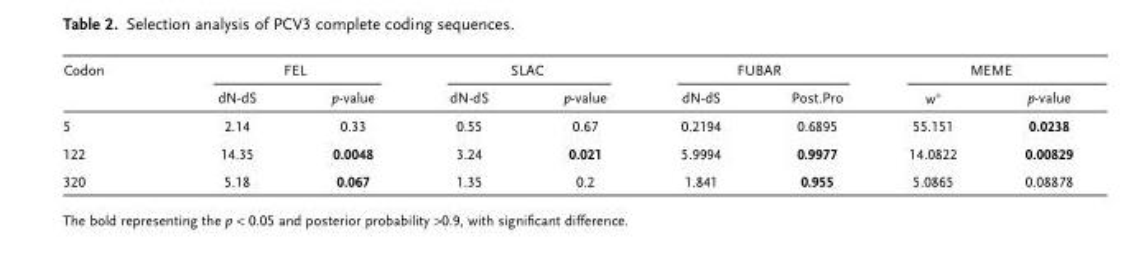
<table><thead><tr><td rowspan="2">Codon</td><td colspan="2">FEL</td><td colspan="2">SLAC</td><td colspan="2">FUBAR</td><td colspan="2">MEME</td></tr><tr><td>dN-dS</td><td>p-value</td><td>dN-dS</td><td>p-value</td><td>dN-dS</td><td>Post.Pro</td><td>w<sup>+</sup></td><td>p-value</td></tr></thead><tbody><tr><td>5</td><td>2.14</td><td>0.33</td><td>0.55</td><td>0.67</td><td>0.2194</td><td>0.6895</td><td>55.151</td><td>0.0238</td></tr><tr><td>122</td><td>14.35</td><td>0.0048</td><td>3.24</td><td>0.021</td><td>5.9994</td><td>0.9977</td><td>14.0822</td><td>0.00829</td></tr><tr><td>320</td><td>5.18</td><td>0.067</td><td>1.35</td><td>0.2</td><td>1.841</td><td>0.955</td><td>5.0865</td><td>0.08878</td></tr></tbody></table>